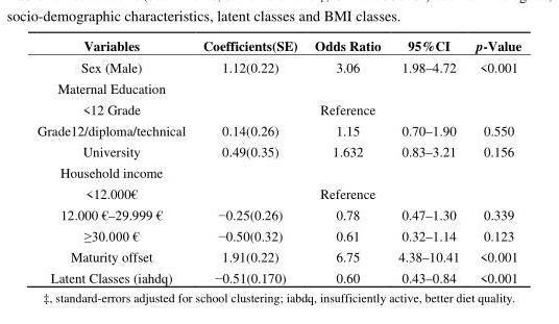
<table><thead><tr><td>Variables</td><td>Coefficients(SE)</td><td>Odds Ratio</td><td>95%CI</td><td>p-Value</td></tr></thead><tbody><tr><td>Sex (Male)</td><td>1.12(0.22)</td><td>3.06</td><td>1.98–4.72</td><td>&lt;0.001</td></tr><tr><td colspan="5">Maternal Education</td></tr><tr><td>&lt;12 Grade</td><td></td><td>Reference</td><td></td><td></td></tr><tr><td>Grade12/diploma/technical</td><td>0.14(0.26)</td><td>1.15</td><td>0.70–1.90</td><td>0.550</td></tr><tr><td>University</td><td>0.49(0.35)</td><td>1.632</td><td>0.83–3.21</td><td>0.156</td></tr><tr><td colspan="5">Household income</td></tr><tr><td>&lt;12.000€</td><td></td><td>Reference</td><td></td><td></td></tr><tr><td>12.000 €–29.999 €</td><td>−0.25(0.26)</td><td>0.78</td><td>0.47–1.30</td><td>0.339</td></tr><tr><td>≥30.000 €</td><td>−0.50(0.32)</td><td>0.61</td><td>0.32–1.14</td><td>0.123</td></tr><tr><td>Maturity offset</td><td>1.91(0.22)</td><td>6.75</td><td>4.38–10.41</td><td>&lt;0.001</td></tr><tr><td>Latent Classes (iahdq)</td><td>−0.51(0.170)</td><td>0.60</td><td>0.43–0.84</td><td>&lt;0.001</td></tr></tbody></table>